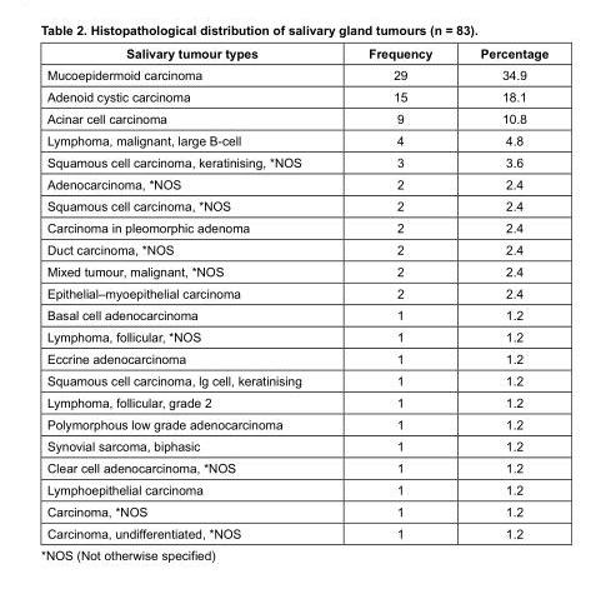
<table><thead><tr><td>Salivary tumour types</td><td>Frequency</td><td>Percentage</td></tr></thead><tbody><tr><td>Mucoepidermoid carcinoma</td><td>29</td><td>34.9</td></tr><tr><td>Adenoid cystic carcinoma</td><td>15</td><td>18.1</td></tr><tr><td>Acinar cell carcinoma</td><td>9</td><td>10.8</td></tr><tr><td>Lymphoma, malignant, large B-cell</td><td>4</td><td>4.8</td></tr><tr><td>Squamous cell carcinoma, keratinising, *NOS</td><td>3</td><td>3.6</td></tr><tr><td>Adenocarcinoma, *NOS</td><td>2</td><td>2.4</td></tr><tr><td>Squamous cell carcinoma, *NOS</td><td>2</td><td>2.4</td></tr><tr><td>Carcinoma in pleomorphic adenoma</td><td>2</td><td>2.4</td></tr><tr><td>Duct carcinoma, *NOS</td><td>2</td><td>2.4</td></tr><tr><td>Mixed tumour, malignant, *NOS</td><td>2</td><td>2.4</td></tr><tr><td>Epithelial–myoepithelial carcinoma</td><td>2</td><td>2.4</td></tr><tr><td>Basal cell adenocarcinoma</td><td>1</td><td>1.2</td></tr><tr><td>Lymphoma, follicular, *NOS</td><td>1</td><td>1.2</td></tr><tr><td>Eccrine adenocarcinoma</td><td>1</td><td>1.2</td></tr><tr><td>Squamous cell carcinoma, lg cell, keratinising</td><td>1</td><td>1.2</td></tr><tr><td>Lymphoma, follicular, grade 2</td><td>1</td><td>1.2</td></tr><tr><td>Polymorphous low grade adenocarcinoma</td><td>1</td><td>1.2</td></tr><tr><td>Synovial sarcoma, biphasic</td><td>1</td><td>1.2</td></tr><tr><td>Clear cell adenocarcinoma, *NOS</td><td>1</td><td>1.2</td></tr><tr><td>Lymphoepithelial carcinoma</td><td>1</td><td>1.2</td></tr><tr><td>Carcinoma, *NOS</td><td>1</td><td>1.2</td></tr><tr><td>Carcinoma, undifferentiated, *NOS</td><td>1</td><td>1.2</td></tr></tbody></table>